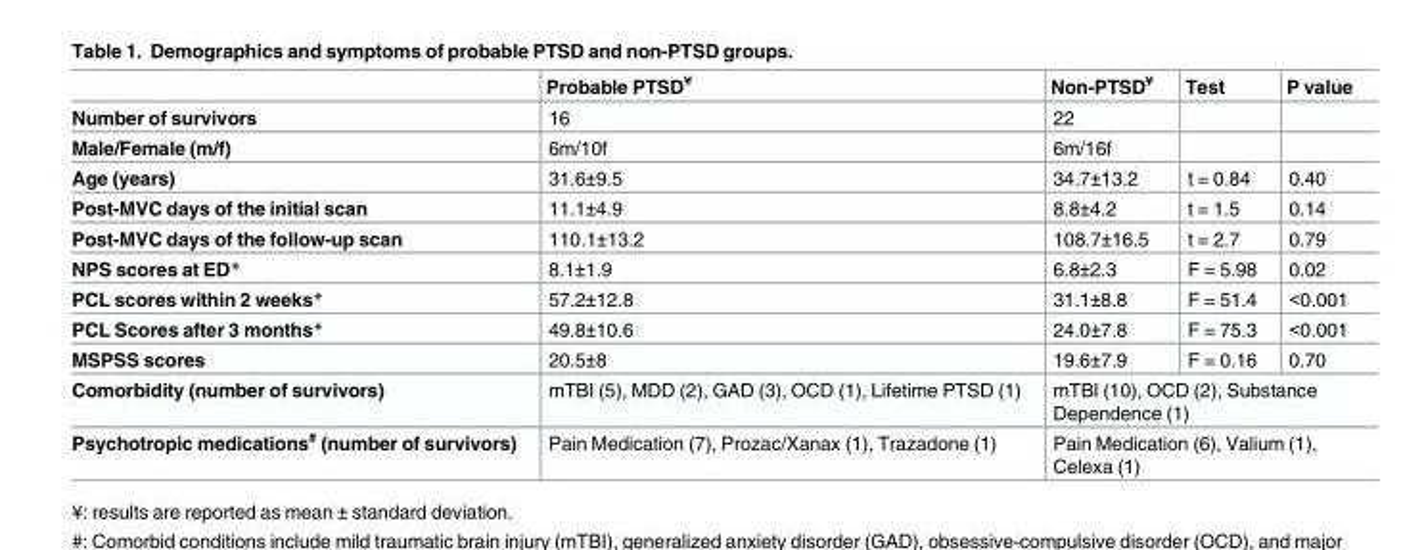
<table><thead><tr><td></td><td>Probable PTSD<sup>¥</sup></td><td>Non-PTSD<sup>¥</sup></td><td>Test</td><td>P value</td></tr></thead><tbody><tr><td>Number of survivors</td><td>16</td><td>22</td><td></td><td></td></tr><tr><td>Male/Female (m/f)</td><td>6m/10f</td><td>6m/16f</td><td></td><td></td></tr><tr><td>Age (years)</td><td>31.6±9.5</td><td>34.7±13.2</td><td>t = 0.84</td><td>0.40</td></tr><tr><td>Post-MVC days of the initial scan</td><td>11.1±4.9</td><td>8.8±4.2</td><td>t = 1.5</td><td>0.14</td></tr><tr><td>Post-MVC days of the follow-up scan</td><td>110.1±13.2</td><td>108.7±16.5</td><td>t = 2.7</td><td>0.79</td></tr><tr><td>NPS scores at ED*</td><td>8.1±1.9</td><td>6.8±2.3</td><td>F = 5.98</td><td>0.02</td></tr><tr><td>PCL scores within 2 weeks*</td><td>57.2±12.8</td><td>31.1±8.8</td><td>F = 51.4</td><td>&lt;0.001</td></tr><tr><td>PCL Scores after 3 months*</td><td>49.8±10.6</td><td>24.0±7.8</td><td>F = 75.3</td><td>&lt;0.001</td></tr><tr><td>MSPSS scores</td><td>20.5±8</td><td>19.6±7.9</td><td>F = 0.16</td><td>0.70</td></tr><tr><td>Comorbidity (number of survivors)</td><td>mTBI (5), MDD (2), GAD (3), OCD (1), Lifetime PTSD (1)</td><td colspan="3">mTBI (10), OCD (2), Substance Dependence (1)</td></tr><tr><td>Psychotropic medications<sup>#</sup> (number of survivors)</td><td>Pain Medication (7), Prozac/Xanax (1), Trazadone (1)</td><td colspan="3">Pain Medication (6), Valium (1), Celexa (1)</td></tr></tbody></table>